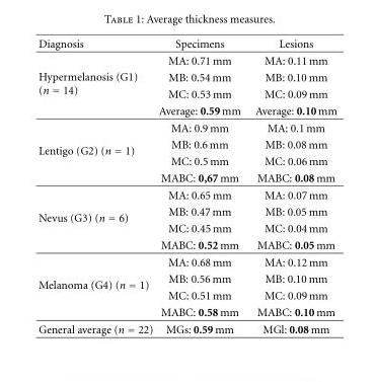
<table><thead><tr><td>Diagnosis</td><td>Specimens</td><td>Lesions</td></tr></thead><tbody><tr><td rowspan="4">Hypermelanosis (G1) (n = 14)</td><td>MA: 0.71 mm</td><td>MA: 0.11 mm</td></tr><tr><td>MB: 0.54 mm</td><td>MB: 0.10 mm</td></tr><tr><td>MC: 0.53 mm</td><td>MC: 0.09 mm</td></tr><tr><td>Average: 0.59 mm</td><td>Average: 0.10 mm</td></tr><tr><td rowspan="4">Lentigo (G2) (n = 1)</td><td>MA: 0.9 mm</td><td>MA: 0.1 mm</td></tr><tr><td>MB: 0.6 mm</td><td>MB: 0.08 mm</td></tr><tr><td>MC: 0.5 mm</td><td>MC: 0.06 mm</td></tr><tr><td>MABC: 0,67 mm</td><td>MABC: 0.08 mm</td></tr><tr><td rowspan="4">Nevus (G3) (n = 6)</td><td>MA: 0.65 mm</td><td>MA: 0.07 mm</td></tr><tr><td>MB: 0.47 mm</td><td>MB: 0.05 mm</td></tr><tr><td>MC: 0.45 mm</td><td>MC: 0.04 mm</td></tr><tr><td>MABC: 0.52 mm</td><td>MABC: 0.05 mm</td></tr><tr><td rowspan="4">Melanoma (G4) (n = 1)</td><td>MA: 0.68 mm</td><td>MA: 0.12 mm</td></tr><tr><td>MB: 0.56 mm</td><td>MB: 0.10 mm</td></tr><tr><td>MC: 0.51 mm</td><td>MC: 0.09 mm</td></tr><tr><td>MABC: 0.58 mm</td><td>MABC: 0.10 mm</td></tr><tr><td>General average (n = 22)</td><td>MGs: 0.59 mm</td><td>MGl: 0.08 mm</td></tr></tbody></table>